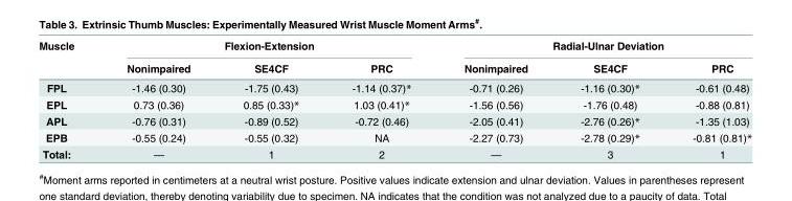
<table><thead><tr><td rowspan="2">Muscle</td><td colspan="3">Flexion-Extension</td><td colspan="3">Radial-Ulnar Deviation</td></tr><tr><td>Nonimpaired</td><td>SE4CF</td><td>PRC</td><td>Nonimpaired</td><td>SE4CF</td><td>PRC</td></tr></thead><tbody><tr><td>FPL</td><td>-1.46 (0.30)</td><td>-1.75 (0.43)</td><td>-1.14 (0.37)*</td><td>-0.71 (0.26)</td><td>-1.16 (0.30)*</td><td>-0.61 (0.48)</td></tr><tr><td>EPL</td><td>0.73 (0.36)</td><td>0.85 (0.33)*</td><td>1.03 (0.41)*</td><td>-1.56 (0.56)</td><td>-1.76 (0.48)</td><td>-0.88 (0.81)</td></tr><tr><td>APL</td><td>-0.76 (0.31)</td><td>-0.89 (0.52)</td><td>-0.72 (0.46)</td><td>-2.05 (0.41)</td><td>-2.76 (0.26)*</td><td>-1.35 (1.03)</td></tr><tr><td>EPB</td><td>-0.55 (0.24)</td><td>-0.55 (0.32)</td><td>NA</td><td>-2.27 (0.73)</td><td>-2.78 (0.29)*</td><td>-0.81 (0.81)*</td></tr><tr><td>Total:</td><td>—</td><td>1</td><td>2</td><td>—</td><td>3</td><td>1</td></tr></tbody></table>